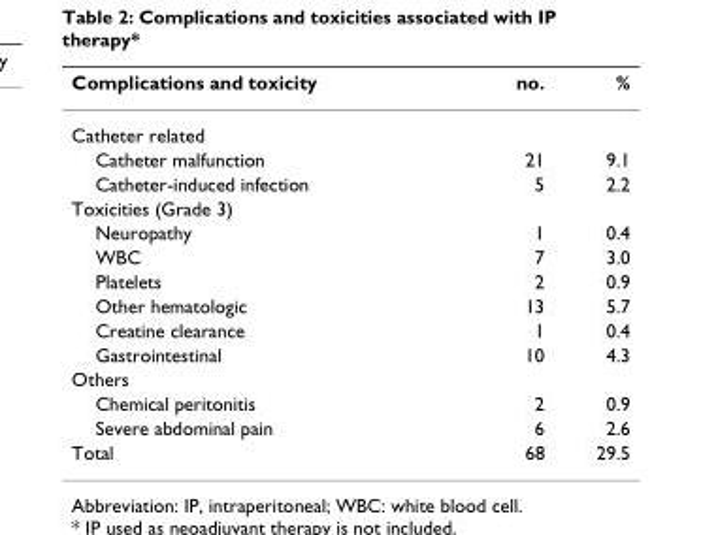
<table><thead><tr><td>Complications and toxicity</td><td>no.</td><td>%</td></tr></thead><tbody><tr><td colspan="3">Catheter related</td></tr><tr><td>Catheter malfunction</td><td>21</td><td>9.1</td></tr><tr><td>Catheter-induced infection</td><td>5</td><td>2.2</td></tr><tr><td colspan="3">Toxicities (Grade 3)</td></tr><tr><td>Neuropathy</td><td>1</td><td>0.4</td></tr><tr><td>WBC</td><td>7</td><td>3.0</td></tr><tr><td>Platelets</td><td>2</td><td>0.9</td></tr><tr><td>Other hematologic</td><td>13</td><td>5.7</td></tr><tr><td>Creatine clearance</td><td>1</td><td>0.4</td></tr><tr><td>Gastrointestinal</td><td>10</td><td>4.3</td></tr><tr><td colspan="3">Others</td></tr><tr><td>Chemical peritonitis</td><td>2</td><td>0.9</td></tr><tr><td>Severe abdominal pain</td><td>6</td><td>2.6</td></tr><tr><td>Total</td><td>68</td><td>29.5</td></tr></tbody></table>